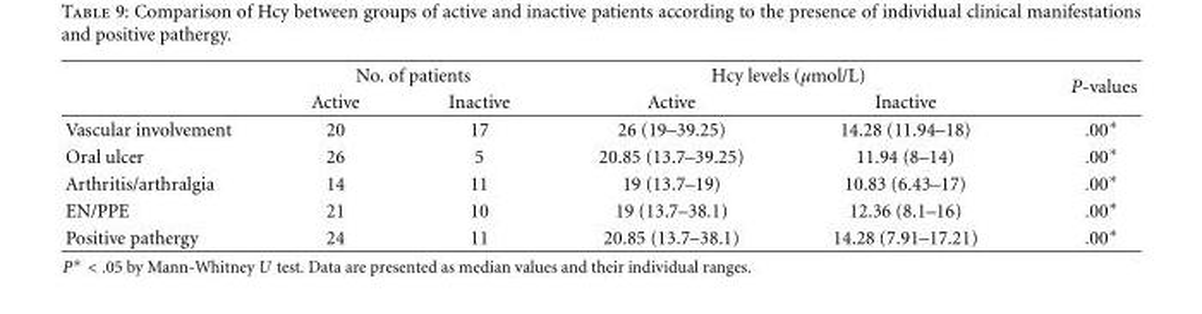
<table><thead><tr><td rowspan="2"></td><td colspan="2">No. of patients</td><td colspan="2">Hcy levels (μmol/L)</td><td rowspan="2">P-values</td></tr><tr><td>Active</td><td>Inactive</td><td>Active</td><td>Inactive</td></tr></thead><tbody><tr><td>Vascular involvement</td><td>20</td><td>17</td><td>26 (19–39.25)</td><td>14.28 (11.94–18)</td><td>.00∗</td></tr><tr><td>Oral ulcer</td><td>26</td><td>5</td><td>20.85 (13.7–39.25)</td><td>11.94 (8–14)</td><td>.00∗</td></tr><tr><td>Arthritis/arthralgia</td><td>14</td><td>11</td><td>19 (13.7–19)</td><td>10.83 (6.43–17)</td><td>.00∗</td></tr><tr><td>EN/PPE</td><td>21</td><td>10</td><td>19 (13.7–38.1)</td><td>12.36 (8.1–16)</td><td>.00∗</td></tr><tr><td>Positive pathergy</td><td>24</td><td>11</td><td>20.85 (13.7–38.1)</td><td>14.28 (7.91–17.21)</td><td>.00∗</td></tr></tbody></table>